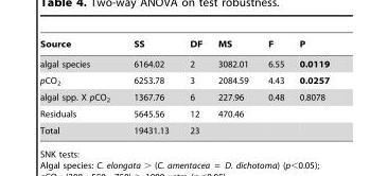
<table><thead><tr><td>Source</td><td>SS</td><td>DF</td><td>MS</td><td>F</td><td>P</td></tr></thead><tbody><tr><td>algal species</td><td>6164.02</td><td>2</td><td>3082.01</td><td>6.55</td><td>0.0119</td></tr><tr><td>pCO<sub>2</sub></td><td>6253.78</td><td>3</td><td>2084.59</td><td>4.43</td><td>0.0257</td></tr><tr><td>algal spp. X pCO<sub>2</sub></td><td>1367.76</td><td>6</td><td>227.96</td><td>0.48</td><td>0.8078</td></tr><tr><td>Residuals</td><td>5645.56</td><td>12</td><td>470.46</td><td></td><td></td></tr><tr><td>Total</td><td>19431.13</td><td>23</td><td></td><td></td><td></td></tr></tbody></table>